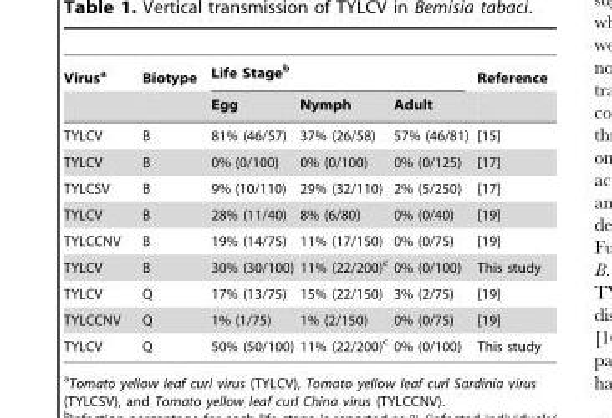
<table><thead><tr><td rowspan="2">Virus<sup>a</sup></td><td rowspan="2">Biotype</td><td colspan="3">Life Stage<sup>b</sup></td><td rowspan="2">Reference</td></tr><tr><td>Egg</td><td>Nymph</td><td>Adult</td></tr></thead><tbody><tr><td>TYLCV</td><td>B</td><td>81% (46/57)</td><td>37% (26/58)</td><td>57% (46/81)</td><td>[15]</td></tr><tr><td>TYLCV</td><td>B</td><td>0% (0/100)</td><td>0% (0/100)</td><td>0% (0/125)</td><td>[17]</td></tr><tr><td>TYLCSV</td><td>B</td><td>9% (10/110)</td><td>29% (32/110)</td><td>2% (5/250)</td><td>[17]</td></tr><tr><td>TYLCV</td><td>B</td><td>28% (11/40)</td><td>8% (6/80)</td><td>0% (0/40)</td><td>[19]</td></tr><tr><td>TYLCCNV</td><td>B</td><td>19% (14/75)</td><td>11% (17/150)</td><td>0% (0/75)</td><td>[19]</td></tr><tr><td>TYLCV</td><td>B</td><td>30% (30/100)</td><td>11% (22/200)<sup>c</sup></td><td>0% (0/100)</td><td>This study</td></tr><tr><td>TYLCV</td><td>Q</td><td>17% (13/75)</td><td>15% (22/150)</td><td>3% (2/75)</td><td>[19]</td></tr><tr><td>TYLCCNV</td><td>Q</td><td>1% (1/75)</td><td>1% (2/150)</td><td>0% (0/75)</td><td>[19]</td></tr><tr><td>TYLCV</td><td>Q</td><td>50% (50/100)</td><td>11% (22/200)<sup>c</sup></td><td>0% (0/100)</td><td>This study</td></tr></tbody></table>